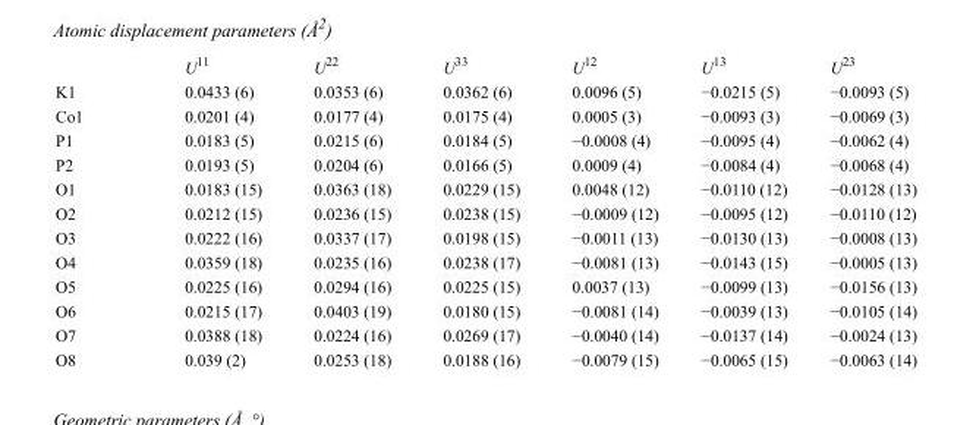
<table><thead><tr><td></td><td>U<sup>11</sup></td><td>U<sup>22</sup></td><td>U<sup>33</sup></td><td>U<sup>12</sup></td><td>U<sup>13</sup></td><td>U<sup>23</sup></td></tr></thead><tbody><tr><td>K1</td><td>0.0433 (6)</td><td>0.0353 (6)</td><td>0.0362 (6)</td><td>0.0096 (5)</td><td>−0.0215 (5)</td><td>−0.0093 (5)</td></tr><tr><td>Co1</td><td>0.0201 (4)</td><td>0.0177 (4)</td><td>0.0175 (4)</td><td>0.0005 (3)</td><td>−0.0093 (3)</td><td>−0.0069 (3)</td></tr><tr><td>P1</td><td>0.0183 (5)</td><td>0.0215 (6)</td><td>0.0184 (5)</td><td>−0.0008 (4)</td><td>−0.0095 (4)</td><td>−0.0062 (4)</td></tr><tr><td>P2</td><td>0.0193 (5)</td><td>0.0204 (6)</td><td>0.0166 (5)</td><td>0.0009 (4)</td><td>−0.0084 (4)</td><td>−0.0068 (4)</td></tr><tr><td>O1</td><td>0.0183 (15)</td><td>0.0363 (18)</td><td>0.0229 (15)</td><td>0.0048 (12)</td><td>−0.0110 (12)</td><td>−0.0128 (13)</td></tr><tr><td>O2</td><td>0.0212 (15)</td><td>0.0236 (15)</td><td>0.0238 (15)</td><td>−0.0009 (12)</td><td>−0.0095 (12)</td><td>−0.0110 (12)</td></tr><tr><td>O3</td><td>0.0222 (16)</td><td>0.0337 (17)</td><td>0.0198 (15)</td><td>−0.0011 (13)</td><td>−0.0130 (13)</td><td>−0.0008 (13)</td></tr><tr><td>O4</td><td>0.0359 (18)</td><td>0.0235 (16)</td><td>0.0238 (17)</td><td>−0.0081 (13)</td><td>−0.0143 (15)</td><td>−0.0005 (13)</td></tr><tr><td>O5</td><td>0.0225 (16)</td><td>0.0294 (16)</td><td>0.0225 (15)</td><td>0.0037 (13)</td><td>−0.0099 (13)</td><td>−0.0156 (13)</td></tr><tr><td>O6</td><td>0.0215 (17)</td><td>0.0403 (19)</td><td>0.0180 (15)</td><td>−0.0081 (14)</td><td>−0.0039 (13)</td><td>−0.0105 (14)</td></tr><tr><td>O7</td><td>0.0388 (18)</td><td>0.0224 (16)</td><td>0.0269 (17)</td><td>−0.0040 (14)</td><td>−0.0137 (14)</td><td>−0.0024 (13)</td></tr><tr><td>O8</td><td>0.039 (2)</td><td>0.0253 (18)</td><td>0.0188 (16)</td><td>−0.0079 (15)</td><td>−0.0065 (15)</td><td>−0.0063 (14)</td></tr></tbody></table>